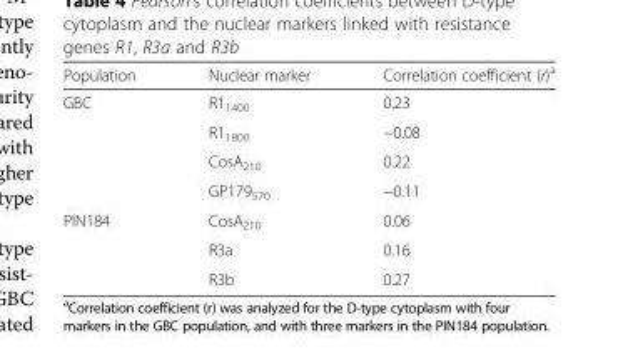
<table><thead><tr><td>Population</td><td>Nuclear marker</td><td>Correlation coefficient (r)<sup>a</sup></td></tr></thead><tbody><tr><td rowspan="4">GBC</td><td>R1<sub>1400</sub></td><td>0.23</td></tr><tr><td>R1<sub>1800</sub></td><td>−0.08</td></tr><tr><td>CosA<sub>210</sub></td><td>0.22</td></tr><tr><td>GP179<sub>570</sub></td><td>−0.11</td></tr><tr><td rowspan="3">PIN184</td><td>CosA<sub>210</sub></td><td>0.06</td></tr><tr><td>R3a</td><td>0.16</td></tr><tr><td>R3b</td><td>0.27</td></tr></tbody></table>